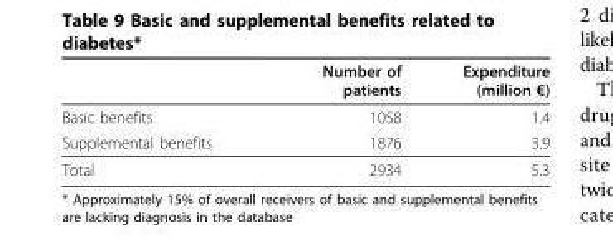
<table><thead><tr><td></td><td>Number of patients</td><td>Expenditure (million €)</td></tr></thead><tbody><tr><td>Basic benefits</td><td>1058</td><td>1.4</td></tr><tr><td>Supplemental benefits</td><td>1876</td><td>3.9</td></tr><tr><td>Total</td><td>2934</td><td>5.3</td></tr></tbody></table>